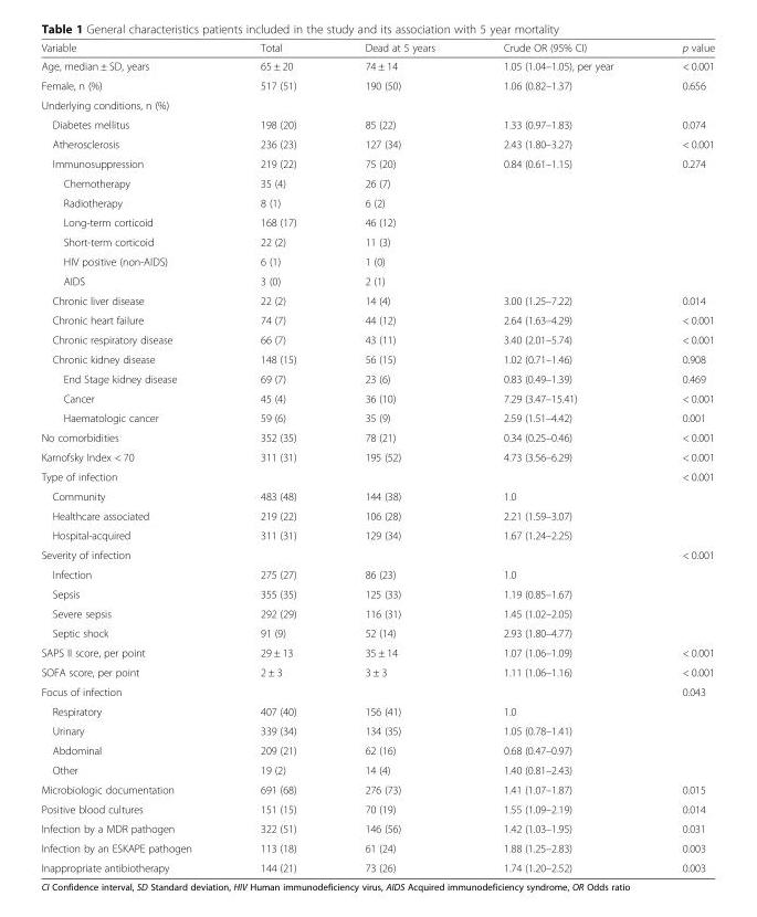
<table><thead><tr><td>Variable</td><td>Total</td><td>Dead at 5 years</td><td>Crude OR (95% CI)</td><td>p value</td></tr></thead><tbody><tr><td>Age, median ± SD, years</td><td>65 ± 20</td><td>74 ± 14</td><td>1.05 (1.04–1.05), per year</td><td>&lt; 0.001</td></tr><tr><td>Female, n (%)</td><td>517 (51)</td><td>190 (50)</td><td>1.06 (0.82–1.37)</td><td>0.656</td></tr><tr><td colspan="5">Underlying conditions, n (%)</td></tr><tr><td>Diabetes mellitus</td><td>198 (20)</td><td>85 (22)</td><td>1.33 (0.97–1.83)</td><td>0.074</td></tr><tr><td>Atherosclerosis</td><td>236 (23)</td><td>127 (34)</td><td>2.43 (1.80–3.27)</td><td>&lt; 0.001</td></tr><tr><td>Immunosuppression</td><td>219 (22)</td><td>75 (20)</td><td>0.84 (0.61–1.15)</td><td>0.274</td></tr><tr><td>Chemotherapy</td><td>35 (4)</td><td>26 (7)</td><td></td><td></td></tr><tr><td>Radiotherapy</td><td>8 (1)</td><td>6 (2)</td><td></td><td></td></tr><tr><td>Long-term corticoid</td><td>168 (17)</td><td>46 (12)</td><td></td><td></td></tr><tr><td>Short-term corticoid</td><td>22 (2)</td><td>11 (3)</td><td></td><td></td></tr><tr><td>HIV positive (non-AIDS)</td><td>6 (1)</td><td>1 (0)</td><td></td><td></td></tr><tr><td>AIDS</td><td>3 (0)</td><td>2 (1)</td><td></td><td></td></tr><tr><td>Chronic liver disease</td><td>22 (2)</td><td>14 (4)</td><td>3.00 (1.25–7.22)</td><td>0.014</td></tr><tr><td>Chronic heart failure</td><td>74 (7)</td><td>44 (12)</td><td>2.64 (1.63–4.29)</td><td>&lt; 0.001</td></tr><tr><td>Chronic respiratory disease</td><td>66 (7)</td><td>43 (11)</td><td>3.40 (2.01–5.74)</td><td>&lt; 0.001</td></tr><tr><td>Chronic kidney disease</td><td>148 (15)</td><td>56 (15)</td><td>1.02 (0.71–1.46)</td><td>0.908</td></tr><tr><td>End Stage kidney disease</td><td>69 (7)</td><td>23 (6)</td><td>0.83 (0.49–1.39)</td><td>0.469</td></tr><tr><td>Cancer</td><td>45 (4)</td><td>36 (10)</td><td>7.29 (3.47–15.41)</td><td>&lt; 0.001</td></tr><tr><td>Haematologic cancer</td><td>59 (6)</td><td>35 (9)</td><td>2.59 (1.51–4.42)</td><td>0.001</td></tr><tr><td>No comorbidities</td><td>352 (35)</td><td>78 (21)</td><td>0.34 (0.25–0.46)</td><td>&lt; 0.001</td></tr><tr><td>Karnofsky Index &lt; 70</td><td>311 (31)</td><td>195 (52)</td><td>4.73 (3.56–6.29)</td><td>&lt; 0.001</td></tr><tr><td>Type of infection</td><td></td><td></td><td></td><td>&lt; 0.001</td></tr><tr><td>Community</td><td>483 (48)</td><td>144 (38)</td><td>1.0</td><td></td></tr><tr><td>Healthcare associated</td><td>219 (22)</td><td>106 (28)</td><td>2.21 (1.59–3.07)</td><td></td></tr><tr><td>Hospital-acquired</td><td>311 (31)</td><td>129 (34)</td><td>1.67 (1.24–2.25)</td><td></td></tr><tr><td>Severity of infection</td><td></td><td></td><td></td><td>&lt; 0.001</td></tr><tr><td>Infection</td><td>275 (27)</td><td>86 (23)</td><td>1.0</td><td></td></tr><tr><td>Sepsis</td><td>355 (35)</td><td>125 (33)</td><td>1.19 (0.85–1.67)</td><td></td></tr><tr><td>Severe sepsis</td><td>292 (29)</td><td>116 (31)</td><td>1.45 (1.02–2.05)</td><td></td></tr><tr><td>Septic shock</td><td>91 (9)</td><td>52 (14)</td><td>2.93 (1.80–4.77)</td><td></td></tr><tr><td>SAPS II score, per point</td><td>29 ± 13</td><td>35 ± 14</td><td>1.07 (1.06–1.09)</td><td>&lt; 0.001</td></tr><tr><td>SOFA score, per point</td><td>2 ± 3</td><td>3 ± 3</td><td>1.11 (1.06–1.16)</td><td>&lt; 0.001</td></tr><tr><td>Focus of infection</td><td></td><td></td><td></td><td>0.043</td></tr><tr><td>Respiratory</td><td>407 (40)</td><td>156 (41)</td><td>1.0</td><td></td></tr><tr><td>Urinary</td><td>339 (34)</td><td>134 (35)</td><td>1.05 (0.78–1.41)</td><td></td></tr><tr><td>Abdominal</td><td>209 (21)</td><td>62 (16)</td><td>0.68 (0.47–0.97)</td><td></td></tr><tr><td>Other</td><td>19 (2)</td><td>14 (4)</td><td>1.40 (0.81–2.43)</td><td></td></tr><tr><td>Microbiologic documentation</td><td>691 (68)</td><td>276 (73)</td><td>1.41 (1.07–1.87)</td><td>0.015</td></tr><tr><td>Positive blood cultures</td><td>151 (15)</td><td>70 (19)</td><td>1.55 (1.09–2.19)</td><td>0.014</td></tr><tr><td>Infection by a MDR pathogen</td><td>322 (51)</td><td>146 (56)</td><td>1.42 (1.03–1.95)</td><td>0.031</td></tr><tr><td>Infection by an ESKAPE pathogen</td><td>113 (18)</td><td>61 (24)</td><td>1.88 (1.25–2.83)</td><td>0.003</td></tr><tr><td>Inappropriate antibiotherapy</td><td>144 (21)</td><td>73 (26)</td><td>1.74 (1.20–2.52)</td><td>0.003</td></tr></tbody></table>